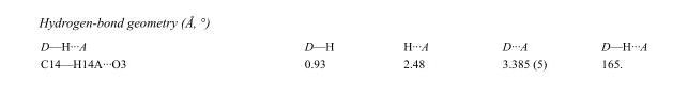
<table><tbody><tr><td>D—H···A</td><td>D—H</td><td>H···A</td><td>D···A</td><td>D—H···A</td></tr><tr><td>C14—H14A···O3</td><td>0.93</td><td>2.48</td><td>3.385 (5)</td><td>165.</td></tr></tbody></table>